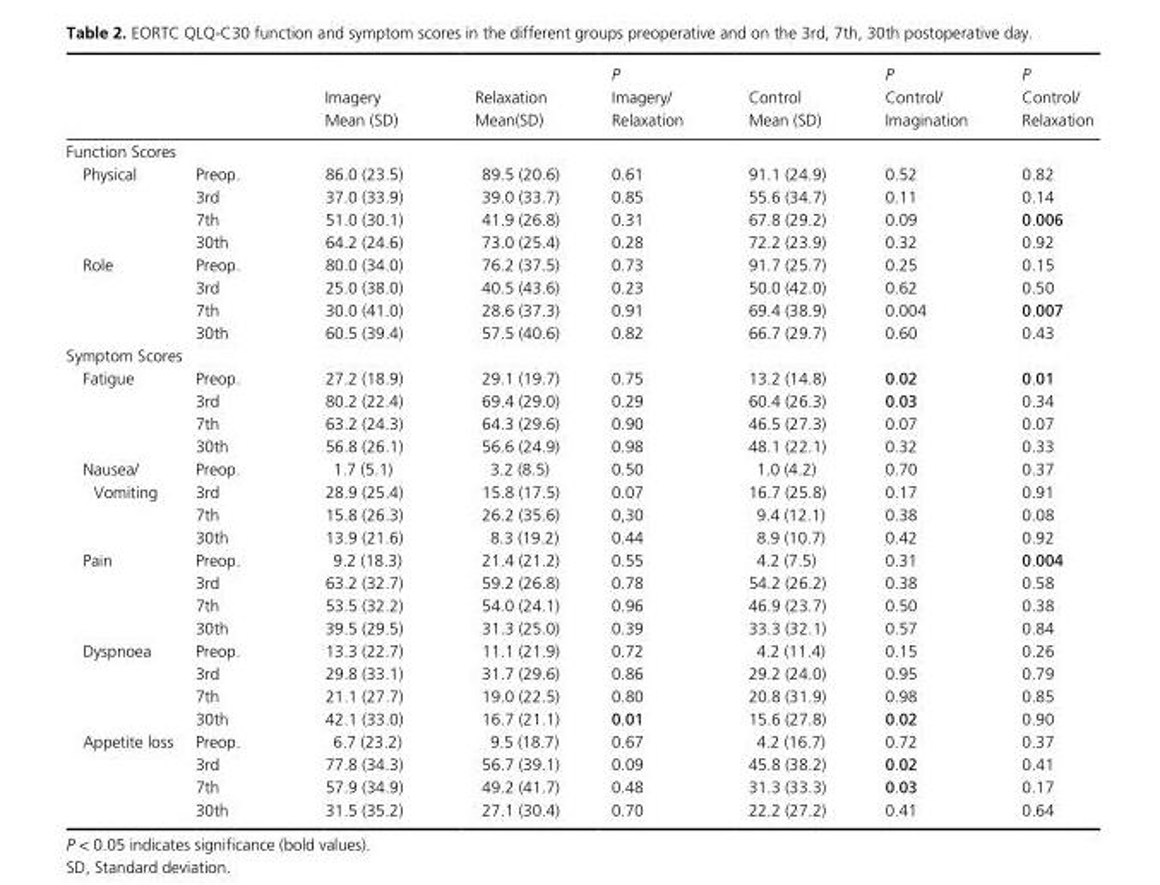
<table><thead><tr><td></td><td></td><td>Imagery Mean (SD)</td><td>Relaxation Mean(SD)</td><td>P Imagery/ Relaxation</td><td>Control Mean (SD)</td><td>P Control/ Imagination</td><td>P Control/ Relaxation</td></tr></thead><tbody><tr><td colspan="8">Function Scores</td></tr><tr><td rowspan="4">Physical</td><td>Preop.</td><td>86.0 (23.5)</td><td>89.5 (20.6)</td><td>0.61</td><td>91.1 (24.9)</td><td>0.52</td><td>0.82</td></tr><tr><td>3rd</td><td>37.0 (33.9)</td><td>39.0 (33.7)</td><td>0.85</td><td>55.6 (34.7)</td><td>0.11</td><td>0.14</td></tr><tr><td>7th</td><td>51.0 (30.1)</td><td>41.9 (26.8)</td><td>0.31</td><td>67.8 (29.2)</td><td>0.09</td><td>0.006</td></tr><tr><td>30th</td><td>64.2 (24.6)</td><td>73.0 (25.4)</td><td>0.28</td><td>72.2 (23.9)</td><td>0.32</td><td>0.92</td></tr><tr><td rowspan="4">Role</td><td>Preop.</td><td>80.0 (34.0)</td><td>76.2 (37.5)</td><td>0.73</td><td>91.7 (25.7)</td><td>0.25</td><td>0.15</td></tr><tr><td>3rd</td><td>25.0 (38.0)</td><td>40.5 (43.6)</td><td>0.23</td><td>50.0 (42.0)</td><td>0.62</td><td>0.50</td></tr><tr><td>7th</td><td>30.0 (41.0)</td><td>28.6 (37.3)</td><td>0.91</td><td>69.4 (38.9)</td><td>0.004</td><td>0.007</td></tr><tr><td>30th</td><td>60.5 (39.4)</td><td>57.5 (40.6)</td><td>0.82</td><td>66.7 (29.7)</td><td>0.60</td><td>0.43</td></tr><tr><td colspan="8">Symptom Scores</td></tr><tr><td rowspan="4">Fatigue</td><td>Preop.</td><td>27.2 (18.9)</td><td>29.1 (19.7)</td><td>0.75</td><td>13.2 (14.8)</td><td>0.02</td><td>0.01</td></tr><tr><td>3rd</td><td>80.2 (22.4)</td><td>69.4 (29.0)</td><td>0.29</td><td>60.4 (26.3)</td><td>0.03</td><td>0.34</td></tr><tr><td>7th</td><td>63.2 (24.3)</td><td>64.3 (29.6)</td><td>0.90</td><td>46.5 (27.3)</td><td>0.07</td><td>0.07</td></tr><tr><td>30th</td><td>56.8 (26.1)</td><td>56.6 (24.9)</td><td>0.98</td><td>48.1 (22.1)</td><td>0.32</td><td>0.33</td></tr><tr><td rowspan="4">N ausea/ Vomiting</td><td>Preop.</td><td>1.7 (5.1)</td><td>3.2 (8.5)</td><td>0.50</td><td>1.0 (4.2)</td><td>0.70</td><td>0.37</td></tr><tr><td>3rd</td><td>28.9 (25.4)</td><td>15.8 (17.5)</td><td>0.07</td><td>16.7 (25.8)</td><td>0.17</td><td>0.91</td></tr><tr><td>7th</td><td>15.8 (26.3)</td><td>26.2 (35.6)</td><td>0,30</td><td>9.4 (12.1)</td><td>0.38</td><td>0.08</td></tr><tr><td>30th</td><td>13.9 (21.6)</td><td>8.3 (19.2)</td><td>0.44</td><td>8.9 (10.7)</td><td>0.42</td><td>0.92</td></tr><tr><td rowspan="4">Pain</td><td>Preop.</td><td>9.2 (18.3)</td><td>21.4 (21.2)</td><td>0.55</td><td>4.2 (7.5)</td><td>0.31</td><td>0.004</td></tr><tr><td>3rd</td><td>63.2 (32.7)</td><td>59.2 (26.8)</td><td>0.78</td><td>54.2 (26.2)</td><td>0.38</td><td>0.58</td></tr><tr><td>7th</td><td>53.5 (32.2)</td><td>54.0 (24.1)</td><td>0.96</td><td>46.9 (23.7)</td><td>0.50</td><td>0.38</td></tr><tr><td>30th</td><td>39.5 (29.5)</td><td>31.3 (25.0)</td><td>0.39</td><td>33.3 (32.1)</td><td>0.57</td><td>0.84</td></tr><tr><td rowspan="4">Dyspnoea</td><td>Preop.</td><td>13.3 (22.7)</td><td>11.1 (21.9)</td><td>0.72</td><td>4.2 (11.4)</td><td>0.15</td><td>0.26</td></tr><tr><td>3rd</td><td>29.8 (33.1)</td><td>31.7 (29.6)</td><td>0.86</td><td>29.2 (24.0)</td><td>0.95</td><td>0.79</td></tr><tr><td>7th</td><td>21.1 (27.7)</td><td>19.0 (22.5)</td><td>0.80</td><td>20.8 (31.9)</td><td>0.98</td><td>0.85</td></tr><tr><td>30th</td><td>42.1 (33.0)</td><td>16.7 (21.1)</td><td>0.01</td><td>15.6 (27.8)</td><td>0.02</td><td>0.90</td></tr><tr><td rowspan="4">Appetite loss</td><td>Preop.</td><td>6.7 (23.2)</td><td>9.5 (18.7)</td><td>0.67</td><td>4.2 (16.7)</td><td>0.72</td><td>0.37</td></tr><tr><td>3rd</td><td>77.8 (34.3)</td><td>56.7 (39.1)</td><td>0.09</td><td>45.8 (38.2)</td><td>0.02</td><td>0.41</td></tr><tr><td>7th</td><td>57.9 (34.9)</td><td>49.2 (41.7)</td><td>0.48</td><td>31.3 (33.3)</td><td>0.03</td><td>0.17</td></tr><tr><td>30th</td><td>31.5 (35.2)</td><td>27.1 (30.4)</td><td>0.70</td><td>22.2 (27.2)</td><td>0.41</td><td>0.64</td></tr></tbody></table>